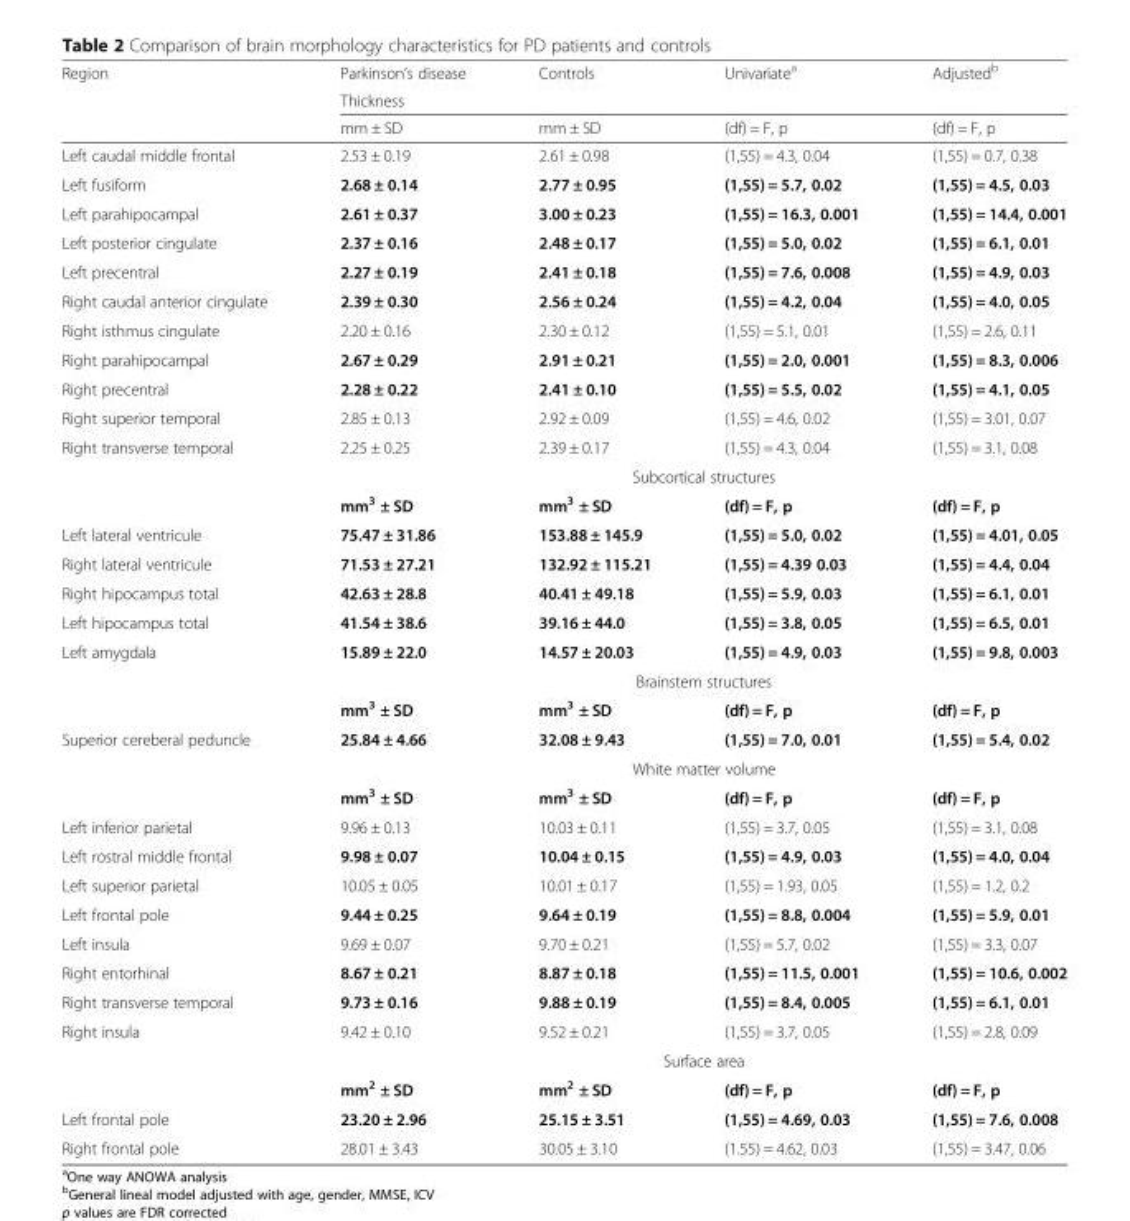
<table><thead><tr><td rowspan="3">Region</td><td>Parkinson’s disease</td><td>Controls</td><td>Univariate<sup>a</sup></td><td>Adjusted<sup>b</sup></td></tr><tr><td colspan="4">Thickness</td></tr><tr><td>mm ± SD</td><td>mm ± SD</td><td>(df) = F, p</td><td>(df) = F, p</td></tr></thead><tbody><tr><td>Left caudal middle frontal</td><td>2.53 ± 0.19</td><td>2.61 ± 0.98</td><td>(1,55) = 4.3, 0.04</td><td>(1,55) = 0.7, 0.38</td></tr><tr><td>Left fusiform</td><td>2.68 ± 0.14</td><td>2.77 ± 0.95</td><td>(1,55) = 5.7, 0.02</td><td>(1,55) = 4.5, 0.03</td></tr><tr><td>Left parahipocampal</td><td>2.61 ± 0.37</td><td>3.00 ± 0.23</td><td>(1,55) = 16.3, 0.001</td><td>(1,55) = 14.4, 0.001</td></tr><tr><td>Left posterior cingulate</td><td>2.37 ± 0.16</td><td>2.48 ± 0.17</td><td>(1,55) = 5.0, 0.02</td><td>(1,55) = 6.1, 0.01</td></tr><tr><td>Left precentral</td><td>2.27 ± 0.19</td><td>2.41 ± 0.18</td><td>(1,55) = 7.6, 0.008</td><td>(1,55) = 4.9, 0.03</td></tr><tr><td>Right caudal anterior cingulate</td><td>2.39 ± 0.30</td><td>2.56 ± 0.24</td><td>(1,55) = 4.2, 0.04</td><td>(1,55) = 4.0, 0.05</td></tr><tr><td>Right isthmus cingulate</td><td>2.20 ± 0.16</td><td>2.30 ± 0.12</td><td>(1,55) = 5.1, 0.01</td><td>(1,55) = 2.6, 0.11</td></tr><tr><td>Right parahipocampal</td><td>2.67 ± 0.29</td><td>2.91 ± 0.21</td><td>(1,55) = 2.0, 0.001</td><td>(1,55) = 8.3, 0.006</td></tr><tr><td>Right precentral</td><td>2.28 ± 0.22</td><td>2.41 ± 0.10</td><td>(1,55) = 5.5, 0.02</td><td>(1,55) = 4.1, 0.05</td></tr><tr><td>Right superior temporal</td><td>2.85 ± 0.13</td><td>2.92 ± 0.09</td><td>(1,55) = 4.6, 0.02</td><td>(1,55) = 3.01, 0.07</td></tr><tr><td rowspan="3">Right transverse temporal</td><td>2.25 ± 0.25</td><td>2.39 ± 0.17</td><td>(1,55) = 4.3, 0.04</td><td>(1,55) = 3.1, 0.08</td></tr><tr><td colspan="4">Subcortical structures</td></tr><tr><td>mm<sup>3</sup> ± SD</td><td>mm<sup>3</sup> ± SD</td><td>(df) = F, p</td><td>(df) = F, p</td></tr><tr><td>Left lateral ventricule</td><td>75.47 ± 31.86</td><td>153.88 ± 145.9</td><td>(1,55) = 5.0, 0.02</td><td>(1,55) = 4.01, 0.05</td></tr><tr><td>Right lateral ventricule</td><td>71.53 ± 27.21</td><td>132.92 ± 115.21</td><td>(1,55) = 4.39 0.03</td><td>(1,55) = 4.4, 0.04</td></tr><tr><td>Right hipocampus total</td><td>42.63 ± 28.8</td><td>40.41 ± 49.18</td><td>(1,55) = 5.9, 0.03</td><td>(1,55) = 6.1, 0.01</td></tr><tr><td>Left hipocampus total</td><td>41.54 ± 38.6</td><td>39.16 ± 44.0</td><td>(1,55) = 3.8, 0.05</td><td>(1,55) = 6.5, 0.01</td></tr><tr><td rowspan="3">Left amygdala</td><td>15.89 ± 22.0</td><td>14.57 ± 20.03</td><td>(1,55) = 4.9, 0.03</td><td>(1,55) = 9.8, 0.003</td></tr><tr><td colspan="4">Brainstem structures</td></tr><tr><td>mm<sup>3</sup> ± SD</td><td>mm<sup>3</sup> ± SD</td><td>(df) = F, p</td><td>(df) = F, p</td></tr><tr><td rowspan="3">Superior cereberal peduncle</td><td>25.84 ± 4.66</td><td>32.08 ± 9.43</td><td>(1,55) = 7.0, 0.01</td><td>(1,55) = 5.4, 0.02</td></tr><tr><td colspan="4">White matter volume</td></tr><tr><td>mm<sup>3</sup> ± SD</td><td>mm<sup>3</sup> ± SD</td><td>(df) = F, p</td><td>(df) = F, p</td></tr><tr><td>Left inferior parietal</td><td>9.96 ± 0.13</td><td>10.03 ± 0.11</td><td>(1,55) = 3.7, 0.05</td><td>(1,55) = 3.1, 0.08</td></tr><tr><td>Left rostral middle frontal</td><td>9.98 ± 0.07</td><td>10.04 ± 0.15</td><td>(1,55) = 4.9, 0.03</td><td>(1,55) = 4.0, 0.04</td></tr><tr><td>Left superior parietal</td><td>10.05 ± 0.05</td><td>10.01 ± 0.17</td><td>(1,55) = 1.93, 0.05</td><td>(1,55) = 1.2, 0.2</td></tr><tr><td>Left frontal pole</td><td>9.44 ± 0.25</td><td>9.64 ± 0.19</td><td>(1,55) = 8.8, 0.004</td><td>(1,55) = 5.9, 0.01</td></tr><tr><td>Left insula</td><td>9.69 ± 0.07</td><td>9.70 ± 0.21</td><td>(1,55) = 5.7, 0.02</td><td>(1,55) = 3.3, 0.07</td></tr><tr><td>Right entorhinal</td><td>8.67 ± 0.21</td><td>8.87 ± 0.18</td><td>(1,55) = 11.5, 0.001</td><td>(1,55) = 10.6, 0.002</td></tr><tr><td>Right transverse temporal</td><td>9.73 ± 0.16</td><td>9.88 ± 0.19</td><td>(1,55) = 8.4, 0.005</td><td>(1,55) = 6.1, 0.01</td></tr><tr><td rowspan="3">Right insula</td><td>9.42 ± 0.10</td><td>9.52 ± 0.21</td><td>(1,55) = 3.7, 0.05</td><td>(1,55) = 2.8, 0.09</td></tr><tr><td colspan="4">Surface area</td></tr><tr><td>mm<sup>2</sup> ± SD</td><td>mm<sup>2</sup> ± SD</td><td>(df) = F, p</td><td>(df) = F, p</td></tr><tr><td>Left frontal pole</td><td>23.20 ± 2.96</td><td>25.15 ± 3.51</td><td>(1,55) = 4.69, 0.03</td><td>(1,55) = 7.6, 0.008</td></tr><tr><td>Right frontal pole</td><td>28.01 ± 3.43</td><td>30.05 ± 3.10</td><td>(1.55) = 4.62, 0.03</td><td>(1,55) = 3.47, 0.06</td></tr></tbody></table>